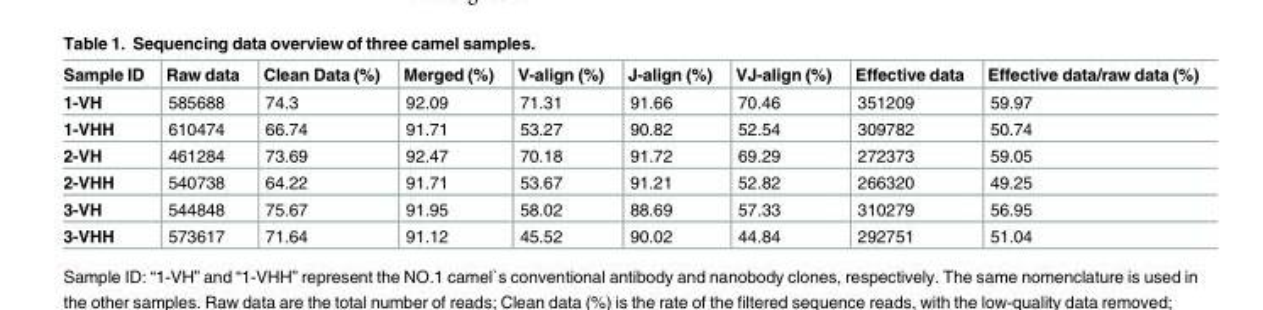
<table><thead><tr><td>Sample ID</td><td>Raw data</td><td>Clean Data (%)</td><td>Merged (%)</td><td>V-align (%)</td><td>J-align (%)</td><td>VJ-align (%)</td><td>Effective data</td><td>Effective data/raw data (%)</td></tr></thead><tbody><tr><td>1-VH</td><td>585688</td><td>74.3</td><td>92.09</td><td>71.31</td><td>91.66</td><td>70.46</td><td>351209</td><td>59.97</td></tr><tr><td>1-VHH</td><td>610474</td><td>66.74</td><td>91.71</td><td>53.27</td><td>90.82</td><td>52.54</td><td>309782</td><td>50.74</td></tr><tr><td>2-VH</td><td>461284</td><td>73.69</td><td>92.47</td><td>70.18</td><td>91.72</td><td>69.29</td><td>272373</td><td>59.05</td></tr><tr><td>2-VHH</td><td>540738</td><td>64.22</td><td>91.71</td><td>53.67</td><td>91.21</td><td>52.82</td><td>266320</td><td>49.25</td></tr><tr><td>3-VH</td><td>544848</td><td>75.67</td><td>91.95</td><td>58.02</td><td>88.69</td><td>57.33</td><td>310279</td><td>56.95</td></tr><tr><td>3-VHH</td><td>573617</td><td>71.64</td><td>91.12</td><td>45.52</td><td>90.02</td><td>44.84</td><td>292751</td><td>51.04</td></tr></tbody></table>